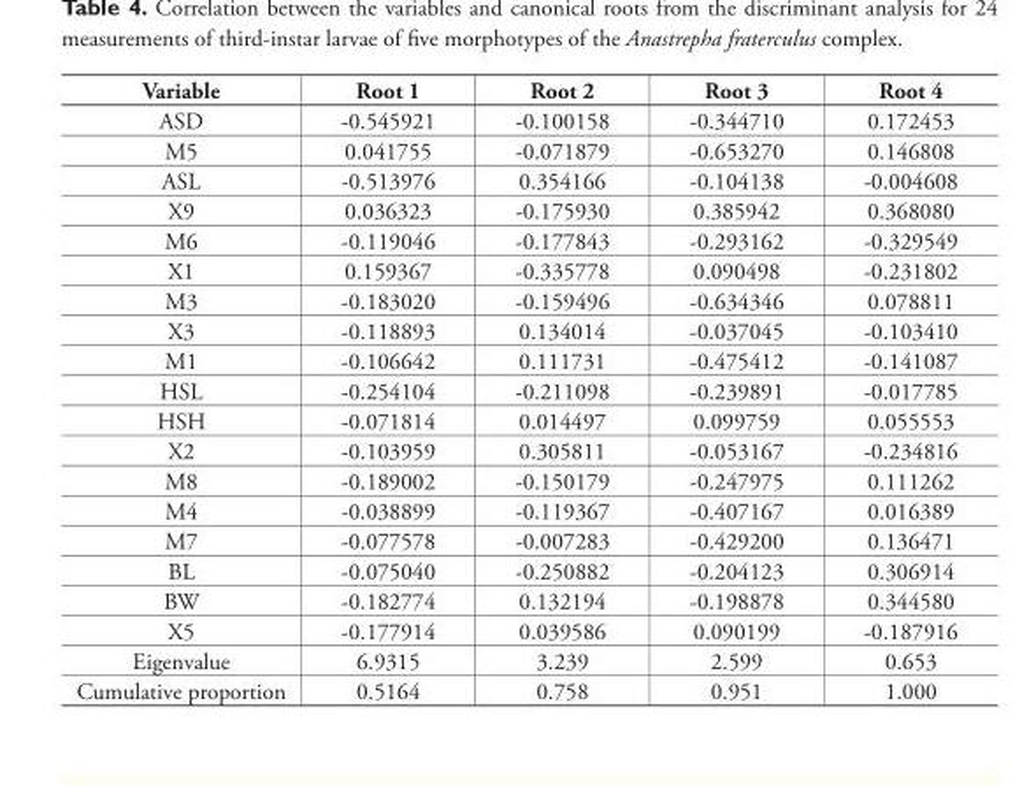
<table><thead><tr><td>Variable</td><td>Root 1</td><td>Root 2</td><td>Root 3</td><td>Root 4</td></tr></thead><tbody><tr><td>ASD</td><td>-0.545921</td><td>-0.100158</td><td>-0.344710</td><td>0.172453</td></tr><tr><td>M5</td><td>0.041755</td><td>-0.071879</td><td>-0.653270</td><td>0.146808</td></tr><tr><td>ASL</td><td>-0.513976</td><td>0.354166</td><td>-0.104138</td><td>-0.004608</td></tr><tr><td>X9</td><td>0.036323</td><td>-0.175930</td><td>0.385942</td><td>0.368080</td></tr><tr><td>M6</td><td>-0.119046</td><td>-0.177843</td><td>-0.293162</td><td>-0.329549</td></tr><tr><td>X1</td><td>0.159367</td><td>-0.335778</td><td>0.090498</td><td>-0.231802</td></tr><tr><td>M3</td><td>-0.183020</td><td>-0.159496</td><td>-0.634346</td><td>0.078811</td></tr><tr><td>X3</td><td>-0.118893</td><td>0.134014</td><td>-0.037045</td><td>-0.103410</td></tr><tr><td>M1</td><td>-0.106642</td><td>0.111731</td><td>-0.475412</td><td>-0.141087</td></tr><tr><td>HSL</td><td>-0.254104</td><td>-0.211098</td><td>-0.239891</td><td>-0.017785</td></tr><tr><td>HSH</td><td>-0.071814</td><td>0.014497</td><td>0.099759</td><td>0.055553</td></tr><tr><td>X2</td><td>-0.103959</td><td>0.305811</td><td>-0.053167</td><td>-0.234816</td></tr><tr><td>M8</td><td>-0.189002</td><td>-0.150179</td><td>-0.247975</td><td>0.111262</td></tr><tr><td>M4</td><td>-0.038899</td><td>-0.119367</td><td>-0.407167</td><td>0.016389</td></tr><tr><td>M7</td><td>-0.077578</td><td>-0.007283</td><td>-0.429200</td><td>0.136471</td></tr><tr><td>BL</td><td>-0.075040</td><td>-0.250882</td><td>-0.204123</td><td>0.306914</td></tr><tr><td>BW</td><td>-0.182774</td><td>0.132194</td><td>-0.198878</td><td>0.344580</td></tr><tr><td>X5</td><td>-0.177914</td><td>0.039586</td><td>0.090199</td><td>-0.187916</td></tr><tr><td>Eigenvalue</td><td>6.9315</td><td>3.239</td><td>2.599</td><td>0.653</td></tr><tr><td>Cumulative proportion</td><td>0.5164</td><td>0.758</td><td>0.951</td><td>1.000</td></tr></tbody></table>